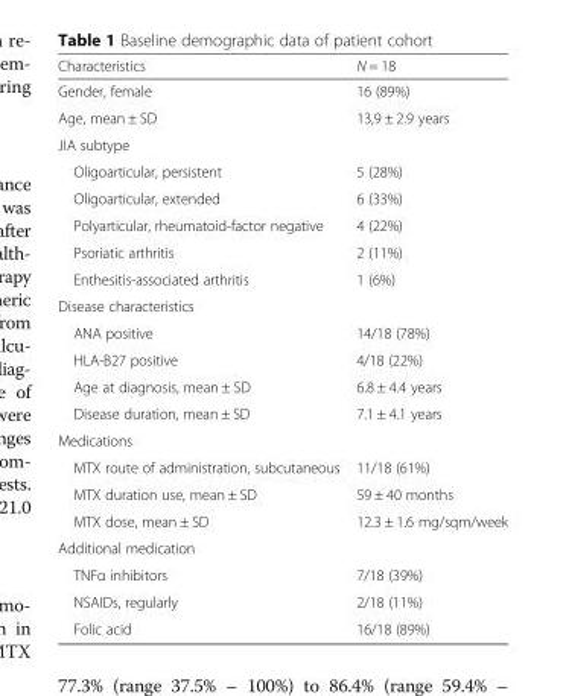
<table><thead><tr><td>Characteristics</td><td>N = 18</td></tr></thead><tbody><tr><td>Gender, female</td><td>16 (89%)</td></tr><tr><td>Age, mean ± SD</td><td>13,9 ± 2.9 years</td></tr><tr><td colspan="2">JIA subtype</td></tr><tr><td>Oligoarticular, persistent</td><td>5 (28%)</td></tr><tr><td>Oligoarticular, extended</td><td>6 (33%)</td></tr><tr><td>Polyarticular, rheumatoid-factor negative</td><td>4 (22%)</td></tr><tr><td>Psoriatic arthritis</td><td>2 (11%)</td></tr><tr><td>Enthesitis-associated arthritis</td><td>1 (6%)</td></tr><tr><td colspan="2">Disease characteristics</td></tr><tr><td>ANA positive</td><td>14/18 (78%)</td></tr><tr><td>HLA-B27 positive</td><td>4/18 (22%)</td></tr><tr><td>Age at diagnosis, mean ± SD</td><td>6.8 ± 4.4 years</td></tr><tr><td>Disease duration, mean ± SD</td><td>7.1 ± 4.1 years</td></tr><tr><td colspan="2">Medications</td></tr><tr><td>MTX route of administration, subcutaneous</td><td>11/18 (61%)</td></tr><tr><td>MTX duration use, mean ± SD</td><td>59 ± 40 months</td></tr><tr><td>MTX dose, mean ± SD</td><td>12.3 ± 1.6 mg/sqm/week</td></tr><tr><td colspan="2">Additional medication</td></tr><tr><td>TNFα inhibitors</td><td>7/18 (39%)</td></tr><tr><td>NSAIDs, regularly</td><td>2/18 (11%)</td></tr><tr><td>Folic acid</td><td>16/18 (89%)</td></tr></tbody></table>